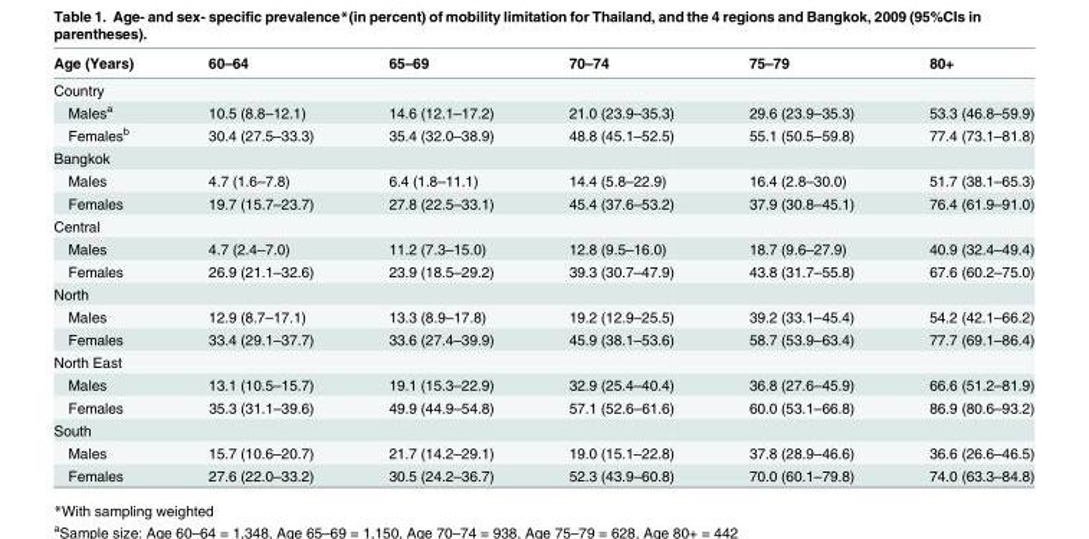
<table><thead><tr><td>Age (Years)</td><td>60–64</td><td>65–69</td><td>70–74</td><td>75–79</td><td>80+</td></tr></thead><tbody><tr><td colspan="6">Country</td></tr><tr><td>Males<sup>a</sup></td><td>10.5 (8.8–12.1)</td><td>14.6 (12.1–17.2)</td><td>21.0 (23.9–35.3)</td><td>29.6 (23.9–35.3)</td><td>53.3 (46.8–59.9)</td></tr><tr><td>Females<sup>b</sup></td><td>30.4 (27.5–33.3)</td><td>35.4 (32.0–38.9)</td><td>48.8 (45.1–52.5)</td><td>55.1 (50.5–59.8)</td><td>77.4 (73.1–81.8)</td></tr><tr><td colspan="6">Bangkok</td></tr><tr><td>Males</td><td>4.7 (1.6–7.8)</td><td>6.4 (1.8–11.1)</td><td>14.4 (5.8–22.9)</td><td>16.4 (2.8–30.0)</td><td>51.7 (38.1–65.3)</td></tr><tr><td>Females</td><td>19.7 (15.7–23.7)</td><td>27.8 (22.5–33.1)</td><td>45.4 (37.6–53.2)</td><td>37.9 (30.8–45.1)</td><td>76.4 (61.9–91.0)</td></tr><tr><td colspan="6">Central</td></tr><tr><td>Males</td><td>4.7 (2.4–7.0)</td><td>11.2 (7.3–15.0)</td><td>12.8 (9.5–16.0)</td><td>18.7 (9.6–27.9)</td><td>40.9 (32.4–49.4)</td></tr><tr><td>Females</td><td>26.9 (21.1–32.6)</td><td>23.9 (18.5–29.2)</td><td>39.3 (30.7–47.9)</td><td>43.8 (31.7–55.8)</td><td>67.6 (60.2–75.0)</td></tr><tr><td colspan="6">North</td></tr><tr><td>Males</td><td>12.9 (8.7–17.1)</td><td>13.3 (8.9–17.8)</td><td>19.2 (12.9–25.5)</td><td>39.2 (33.1–45.4)</td><td>54.2 (42.1–66.2)</td></tr><tr><td>Females</td><td>33.4 (29.1–37.7)</td><td>33.6 (27.4–39.9)</td><td>45.9 (38.1–53.6)</td><td>58.7 (53.9–63.4)</td><td>77.7 (69.1–86.4)</td></tr><tr><td colspan="6">North East</td></tr><tr><td>Males</td><td>13.1 (10.5–15.7)</td><td>19.1 (15.3–22.9)</td><td>32.9 (25.4–40.4)</td><td>36.8 (27.6–45.9)</td><td>66.6 (51.2–81.9)</td></tr><tr><td>Females</td><td>35.3 (31.1–39.6)</td><td>49.9 (44.9–54.8)</td><td>57.1 (52.6–61.6)</td><td>60.0 (53.1–66.8)</td><td>86.9 (80.6–93.2)</td></tr><tr><td colspan="6">South</td></tr><tr><td>Males</td><td>15.7 (10.6–20.7)</td><td>21.7 (14.2–29.1)</td><td>19.0 (15.1–22.8)</td><td>37.8 (28.9–46.6)</td><td>36.6 (26.6–46.5)</td></tr><tr><td>Females</td><td>27.6 (22.0–33.2)</td><td>30.5 (24.2–36.7)</td><td>52.3 (43.9–60.8)</td><td>70.0 (60.1–79.8)</td><td>74.0 (63.3–84.8)</td></tr></tbody></table>